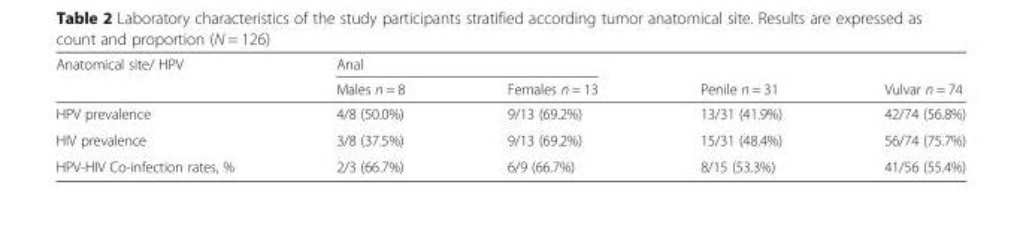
<table><thead><tr><td rowspan="2">Anatomical site/ HPV</td><td colspan="2">Anal</td><td rowspan="2">Penile n = 31</td><td rowspan="2">Vulvar n = 74</td></tr><tr><td>Males n = 8</td><td>Females n = 13</td></tr></thead><tbody><tr><td>HPV prevalence</td><td>4/8 (50.0%)</td><td>9/13 (69.2%)</td><td>13/31 (41.9%)</td><td>42/74 (56.8%)</td></tr><tr><td>HIV prevalence</td><td>3/8 (37.5%)</td><td>9/13 (69.2%)</td><td>15/31 (48.4%)</td><td>56/74 (75.7%)</td></tr><tr><td>HPV-HIV Co-infection rates, %</td><td>2/3 (66.7%)</td><td>6/9 (66.7%)</td><td>8/15 (53.3%)</td><td>41/56 (55.4%)</td></tr></tbody></table>